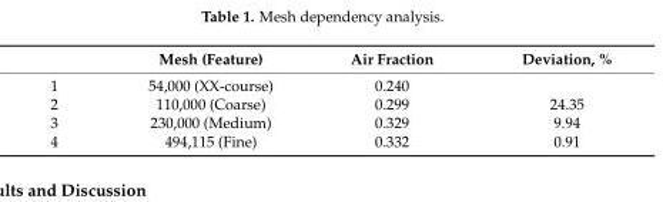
<table><thead><tr><td></td><td>Mesh (Feature)</td><td>Air Fraction</td><td>Deviation, %</td></tr></thead><tbody><tr><td>1</td><td>54,000 (XX-course)</td><td>0.240</td><td></td></tr><tr><td>2</td><td>110,000 (Coarse)</td><td>0.299</td><td>24.35</td></tr><tr><td>3</td><td>230,000 (Medium)</td><td>0.329</td><td>9.94</td></tr><tr><td>4</td><td>494,115 (Fine)</td><td>0.332</td><td>0.91</td></tr></tbody></table>